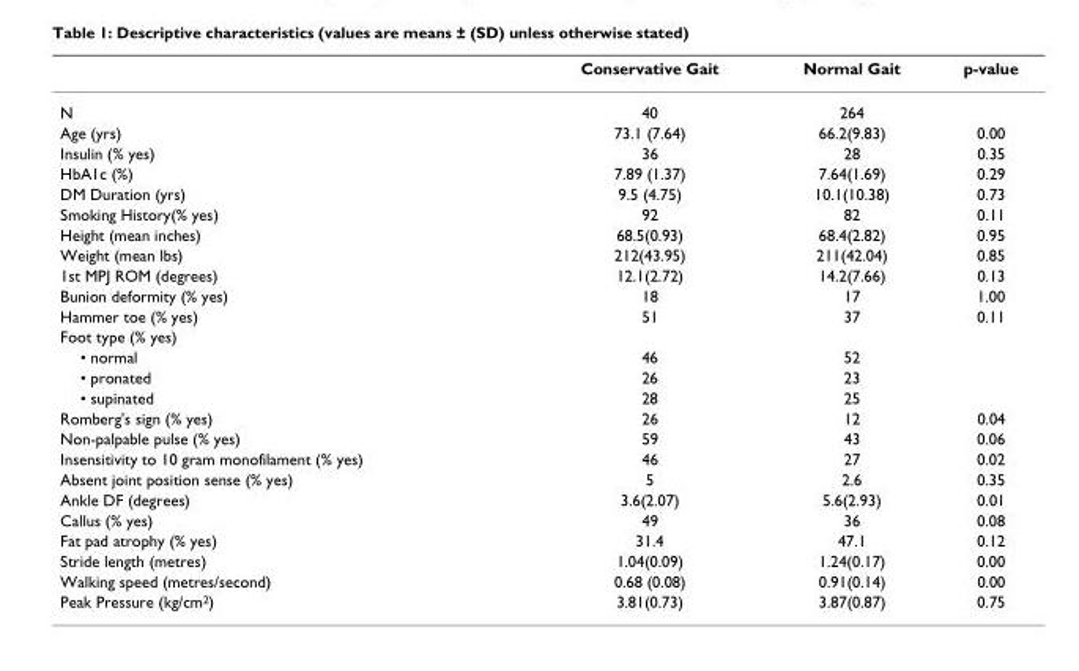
<table><thead><tr><td></td><td>Conservative Gait</td><td>Normal Gait</td><td>p-value</td></tr></thead><tbody><tr><td>N</td><td>40</td><td>264</td><td></td></tr><tr><td>Age (yrs)</td><td>73.1 (7.64)</td><td>66.2(9.83)</td><td>0.00</td></tr><tr><td>Insulin (% yes)</td><td>36</td><td>28</td><td>0.35</td></tr><tr><td>HbA1c (%)</td><td>7.89 (1.37)</td><td>7.64(1.69)</td><td>0.29</td></tr><tr><td>DM Duration (yrs)</td><td>9.5 (4.75)</td><td>10.1(10.38)</td><td>0.73</td></tr><tr><td>Smoking History(% yes)</td><td>92</td><td>82</td><td>0.11</td></tr><tr><td>Height (mean inches)</td><td>68.5(0.93)</td><td>68.4(2.82)</td><td>0.95</td></tr><tr><td>Weight (mean lbs)</td><td>212(43.95)</td><td>211(42.04)</td><td>0.85</td></tr><tr><td>1st MPJ ROM (degrees)</td><td>12.1(2.72)</td><td>14.2(7.66)</td><td>0.13</td></tr><tr><td>Bunion deformity (% yes)</td><td>18</td><td>17</td><td>1.00</td></tr><tr><td>Hammer toe (% yes)</td><td>51</td><td>37</td><td>0.11</td></tr><tr><td colspan="4">Foot type (% yes)</td></tr><tr><td>• normal</td><td>46</td><td>52</td><td></td></tr><tr><td>• pronated</td><td>26</td><td>23</td><td></td></tr><tr><td>• supinated</td><td>28</td><td>25</td><td></td></tr><tr><td>Romberg&#x27;s sign (% yes)</td><td>26</td><td>12</td><td>0.04</td></tr><tr><td>Non-palpable pulse (% yes)</td><td>59</td><td>43</td><td>0.06</td></tr><tr><td>Insensitivity to 10 gram monofilament (% yes)</td><td>46</td><td>27</td><td>0.02</td></tr><tr><td>Absent joint position sense (% yes)</td><td>5</td><td>2.6</td><td>0.35</td></tr><tr><td>Ankle DF (degrees)</td><td>3.6(2.07)</td><td>5.6(2.93)</td><td>0.01</td></tr><tr><td>Callus (% yes)</td><td>49</td><td>36</td><td>0.08</td></tr><tr><td>Fat pad atrophy (% yes)</td><td>31.4</td><td>47.1</td><td>0.12</td></tr><tr><td>Stride length (metres)</td><td>1.04(0.09)</td><td>1.24(0.17)</td><td>0.00</td></tr><tr><td>Walking speed (metres/second)</td><td>0.68 (0.08)</td><td>0.91(0.14)</td><td>0.00</td></tr><tr><td>Peak Pressure (kg/cm<sup>2</sup>)</td><td>3.81(0.73)</td><td>3.87(0.87)</td><td>0.75</td></tr></tbody></table>